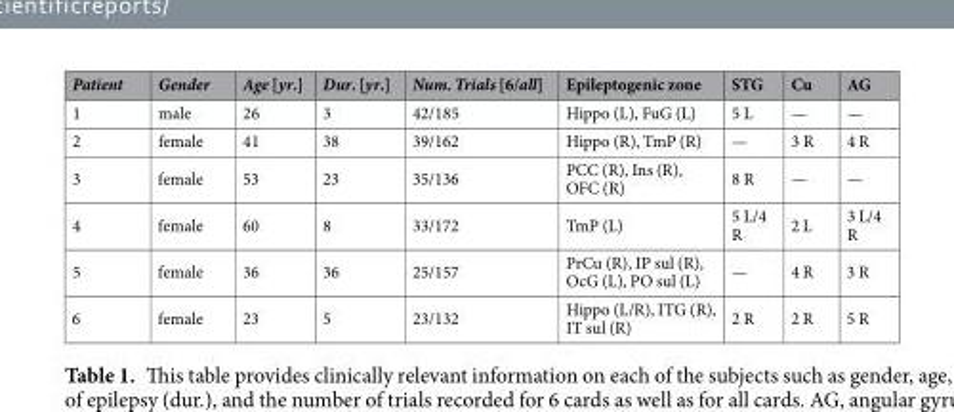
<table><thead><tr><td>Patient</td><td>Gender</td><td>Age [yr.]</td><td>Dur. [yr.]</td><td>Num. Trials [6/all]</td><td>Epileptogenic zone</td><td>STG</td><td>Cu</td><td>AG</td></tr></thead><tbody><tr><td>1</td><td>male</td><td>26</td><td>3</td><td>42/185</td><td>Hippo (L), FuG (L)</td><td>5 L</td><td>—</td><td>—</td></tr><tr><td>2</td><td>female</td><td>41</td><td>38</td><td>39/162</td><td>Hippo (R), TmP (R)</td><td>—</td><td>3 R</td><td>4 R</td></tr><tr><td>3</td><td>female</td><td>53</td><td>23</td><td>35/136</td><td>PCC (R), Ins (R), OFC (R)</td><td>8 R</td><td>—</td><td>—</td></tr><tr><td>4</td><td>female</td><td>60</td><td>8</td><td>33/172</td><td>TmP (L)</td><td>5 L/4 R</td><td>2 L</td><td>3 L/4 R</td></tr><tr><td>5</td><td>female</td><td>36</td><td>36</td><td>25/157</td><td>PrCu (R), IP sul (R), OcG (L), PO sul (L)</td><td>—</td><td>4 R</td><td>3 R</td></tr><tr><td>6</td><td>female</td><td>23</td><td>5</td><td>23/132</td><td>Hippo (L/R), ITG (R), IT sul (R)</td><td>2 R</td><td>2 R</td><td>5 R</td></tr></tbody></table>